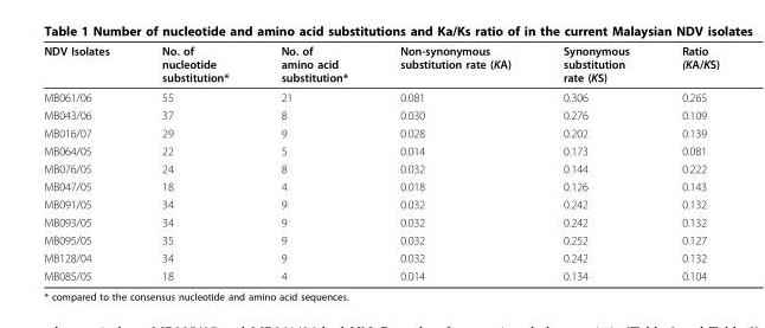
<table><thead><tr><td>NDV Isolates</td><td>No. of nucleotide substitution*</td><td>No. of amino acid substitution*</td><td>Non-synonymous substitution rate (KA)</td><td>Synonymous substitution rate (KS)</td><td>Ratio (KA/KS)</td></tr></thead><tbody><tr><td>MB061/06</td><td>55</td><td>21</td><td>0.081</td><td>0.306</td><td>0.265</td></tr><tr><td>MB043/06</td><td>37</td><td>8</td><td>0.030</td><td>0.276</td><td>0.109</td></tr><tr><td>MB016/07</td><td>29</td><td>9</td><td>0.028</td><td>0.202</td><td>0.139</td></tr><tr><td>MB064/05</td><td>22</td><td>5</td><td>0.014</td><td>0.173</td><td>0.081</td></tr><tr><td>MB076/05</td><td>24</td><td>8</td><td>0.032</td><td>0.144</td><td>0.222</td></tr><tr><td>MB047/05</td><td>18</td><td>4</td><td>0.018</td><td>0.126</td><td>0.143</td></tr><tr><td>MB091/05</td><td>34</td><td>9</td><td>0.032</td><td>0.242</td><td>0.132</td></tr><tr><td>MB093/05</td><td>34</td><td>9</td><td>0.032</td><td>0.242</td><td>0.132</td></tr><tr><td>MB095/05</td><td>35</td><td>9</td><td>0.032</td><td>0.252</td><td>0.127</td></tr><tr><td>MB128/04</td><td>34</td><td>9</td><td>0.032</td><td>0.242</td><td>0.132</td></tr><tr><td>MB085/05</td><td>18</td><td>4</td><td>0.014</td><td>0.134</td><td>0.104</td></tr></tbody></table>